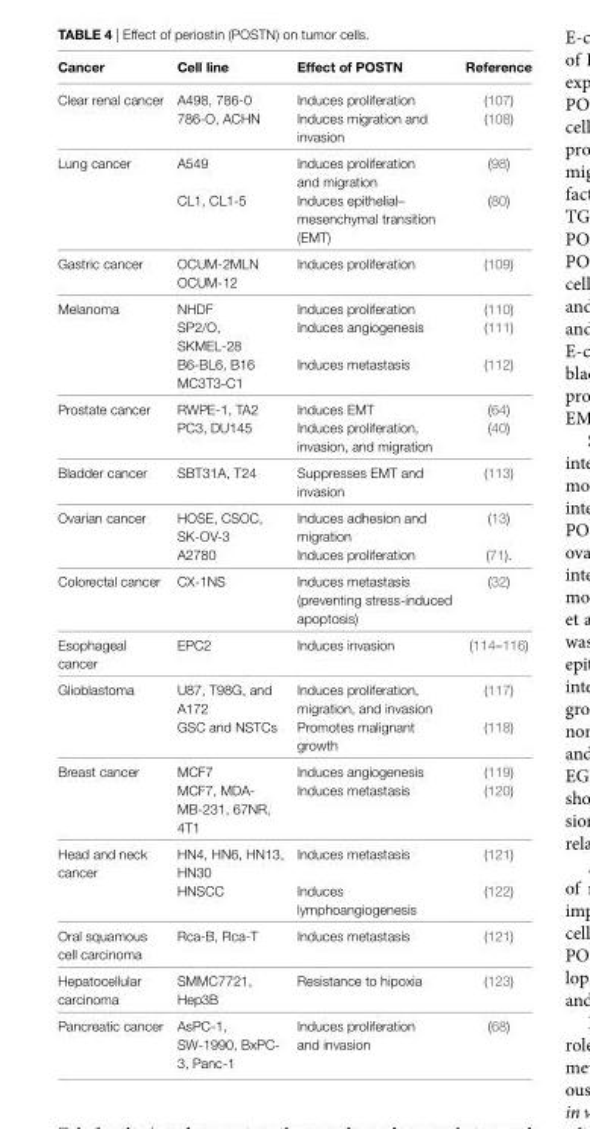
<table><thead><tr><td>Cancer</td><td>Cell line</td><td>effect of POSTN</td><td>Reference</td></tr></thead><tbody><tr><td rowspan="2">Clear renal cancer</td><td>A498, 786-0</td><td>Induces proliferation</td><td>(107)</td></tr><tr><td>786-O, ACHN</td><td>Induces migration and invasion</td><td>(108)</td></tr><tr><td rowspan="2">Lung cancer</td><td>A549</td><td>Induces proliferation and migration</td><td>(98)</td></tr><tr><td>CL1, CL1-5</td><td>Induces epithelial– mesenchymal transition (EMT)</td><td>(80)</td></tr><tr><td rowspan="2">Gastric cancer</td><td>OCUM-2MLN</td><td rowspan="2">Induces proliferation</td><td rowspan="2">(109)</td></tr><tr><td>OCUM-12</td></tr><tr><td rowspan="4">Melanoma</td><td>NHDF</td><td>Induces proliferation</td><td>(110)</td></tr><tr><td>SP2/O, SKMEL-28</td><td>Induces angiogenesis</td><td>(111)</td></tr><tr><td>B6-BL6, B16</td><td rowspan="2">Induces metastasis</td><td rowspan="2">(112)</td></tr><tr><td>MC3T3-C1</td></tr><tr><td rowspan="2">Prostate cancer</td><td>RWPE-1, TA2</td><td>Induces EMT</td><td>(64)</td></tr><tr><td>PC3, DU145</td><td>Induces proliferation, invasion, and migration</td><td>(40)</td></tr><tr><td>Bladder cancer</td><td>SBT31A, T24</td><td>Suppresses EMT and invasion</td><td>(113)</td></tr><tr><td rowspan="2">Ovarian cancer</td><td>HOSE, CSOC, SK-OV-3</td><td>Induces adhesion and migration</td><td>(13)</td></tr><tr><td>A2780</td><td>Induces proliferation</td><td>(71).</td></tr><tr><td>Colorectal cancer</td><td>CX-1NS</td><td>Induces metastasis (preventing stress-induced apoptosis)</td><td>(32)</td></tr><tr><td>Esophageal cancer</td><td>EPC2</td><td>Induces invasion</td><td>(114–116)</td></tr><tr><td rowspan="2">Glioblastoma</td><td>U87, T98G, and A172</td><td>Induces proliferation, migration, and invasion</td><td>(117)</td></tr><tr><td>GSC and NSTCs</td><td>Promotes malignant growth</td><td>(118)</td></tr><tr><td rowspan="2">Breast cancer</td><td>MCF7</td><td>Induces angiogenesis</td><td>(119)</td></tr><tr><td>MCF7, MDA- MB-231, 67NR, 4T1</td><td>Induces metastasis</td><td>(120)</td></tr><tr><td rowspan="2">Head and neck cancer</td><td>HN4, HN6, HN13, HN30</td><td>Induces metastasis</td><td>(121)</td></tr><tr><td>HNSCC</td><td>Induces lymphoangiogenesis</td><td>(122)</td></tr><tr><td>Oral squamous cell carcinoma</td><td>Rca-B, Rca-T</td><td>Induces metastasis</td><td>(121)</td></tr><tr><td>Hepatocellular carcinoma</td><td>SMMC7721, Hep3B</td><td>Resistance to hipoxia</td><td>(123)</td></tr><tr><td>Pancreatic cancer</td><td>AsPC-1, SW-1990, BxPC- 3, Panc-1</td><td>Induces proliferation and invasion</td><td>(68)</td></tr></tbody></table>